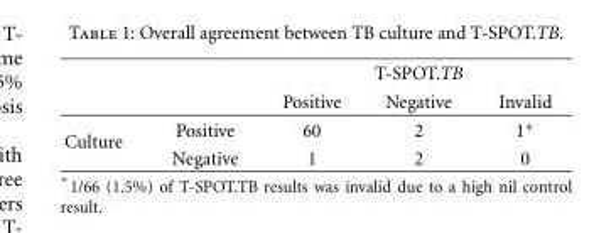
<table><thead><tr><td rowspan="2"></td><td rowspan="2"></td><td colspan="3">T-SPOT.TB</td></tr><tr><td>Positive</td><td>Negative</td><td>Invalid</td></tr></thead><tbody><tr><td rowspan="2">Culture</td><td>Positive</td><td>60</td><td>2</td><td>1∗</td></tr><tr><td>Negative</td><td>1</td><td>2</td><td>0</td></tr></tbody></table>